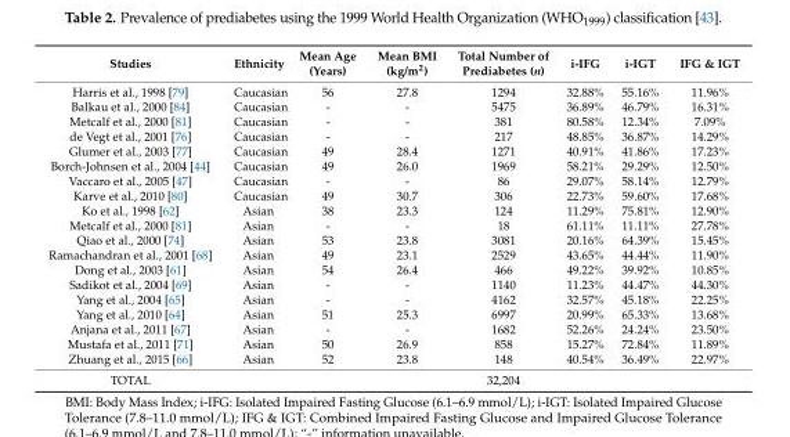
<table><thead><tr><td>Studies</td><td>Ethnicity</td><td>Mean Age (Years)</td><td>Mean BMI (kg/m<sup>2</sup>)</td><td>Total Number of Prediabetes (n)</td><td>i-IFG</td><td>i-IGT</td><td>IFG &amp; IGT</td></tr></thead><tbody><tr><td>Harris et al., 1998 [79]</td><td>Caucasian</td><td>56</td><td>27.8</td><td>1294</td><td>32.88%</td><td>55.16%</td><td>11.96%</td></tr><tr><td>Balkau et al., 2000 [84]</td><td>Caucasian</td><td>-</td><td>-</td><td>5475</td><td>36.89%</td><td>46.79%</td><td>16.31%</td></tr><tr><td>Metcalf et al., 2000 [81]</td><td>Caucasian</td><td>-</td><td>-</td><td>381</td><td>80.58%</td><td>12.34%</td><td>7.09%</td></tr><tr><td>de Vegt et al., 2001 [76]</td><td>Caucasian</td><td>-</td><td>-</td><td>217</td><td>48.85%</td><td>36.87%</td><td>14.29%</td></tr><tr><td>Glumer et al., 2003 [77]</td><td>Caucasian</td><td>49</td><td>28.4</td><td>1271</td><td>40.91%</td><td>41.86%</td><td>17.23%</td></tr><tr><td>Borch-Johnsen et al., 2004 [44]</td><td>Caucasian</td><td>49</td><td>26.0</td><td>1969</td><td>58.21%</td><td>29.29%</td><td>12.50%</td></tr><tr><td>Vaccaro et al., 2005 [47]</td><td>Caucasian</td><td>-</td><td>-</td><td>86</td><td>29.07%</td><td>58.14%</td><td>12.79%</td></tr><tr><td>Karve et al., 2010 [80]</td><td>Caucasian</td><td>49</td><td>30.7</td><td>306</td><td>22.73%</td><td>59.60%</td><td>17.68%</td></tr><tr><td>Ko et al., 1998 [62]</td><td>Asian</td><td>38</td><td>23.3</td><td>124</td><td>11.29%</td><td>75.81%</td><td>12.90%</td></tr><tr><td>Metcalf et al., 2000 [81]</td><td>Asian</td><td>-</td><td>-</td><td>18</td><td>61.11%</td><td>11.11%</td><td>27.78%</td></tr><tr><td>Qiao et al., 2000 [74]</td><td>Asian</td><td>53</td><td>23.8</td><td>3081</td><td>20.16%</td><td>64.39%</td><td>15.45%</td></tr><tr><td>Ramachandran et al., 2001 [68]</td><td>Asian</td><td>49</td><td>23.1</td><td>2529</td><td>43.65%</td><td>44.44%</td><td>11.90%</td></tr><tr><td>Dong et al., 2003 [61]</td><td>Asian</td><td>54</td><td>26.4</td><td>466</td><td>49.22%</td><td>39.92%</td><td>10.85%</td></tr><tr><td>Sadikot et al., 2004 [69]</td><td>Asian</td><td>-</td><td>-</td><td>1140</td><td>11.23%</td><td>44.47%</td><td>44.30%</td></tr><tr><td>Yang et al., 2004 [65]</td><td>Asian</td><td>-</td><td>-</td><td>4162</td><td>32.57%</td><td>45.18%</td><td>22.25%</td></tr><tr><td>Yang et al., 2010 [64]</td><td>Asian</td><td>51</td><td>25.3</td><td>6997</td><td>20.99%</td><td>65.33%</td><td>13.68%</td></tr><tr><td>Anjana et al., 2011 [67]</td><td>Asian</td><td>-</td><td>-</td><td>1682</td><td>52.26%</td><td>24.24%</td><td>23.50%</td></tr><tr><td>Mustafa et al., 2011 [71]</td><td>Asian</td><td>50</td><td>26.9</td><td>858</td><td>15.27%</td><td>72.84%</td><td>11.89%</td></tr><tr><td>Zhuang et al., 2015 [66]</td><td>Asian</td><td>52</td><td>23.8</td><td>148</td><td>40.54%</td><td>36.49%</td><td>22.97%</td></tr><tr><td>TOTAL</td><td></td><td></td><td></td><td>32,204</td><td></td><td></td><td></td></tr></tbody></table>